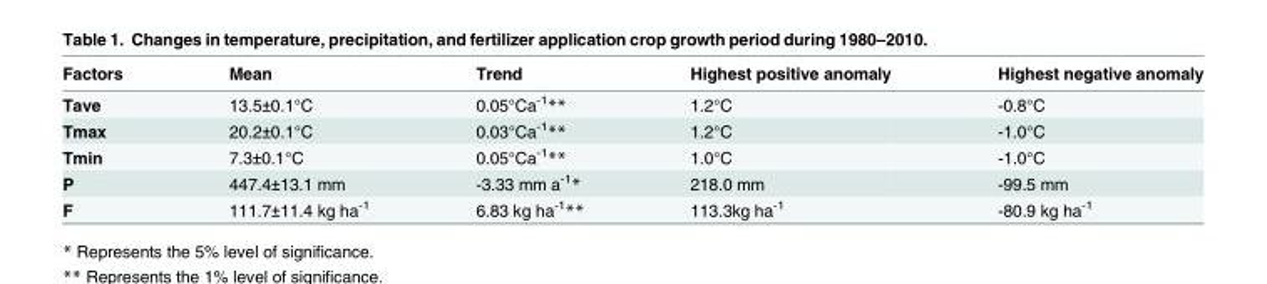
<table><thead><tr><td>Factors</td><td>Mean</td><td>Trend</td><td>Highest positive anomaly</td><td>Highest negative anomaly</td></tr></thead><tbody><tr><td>Tave</td><td>13.5±0.1°C</td><td>0.05°Ca<sup>-1</sup>**</td><td>1.2°C</td><td>-0.8°C</td></tr><tr><td>Tmax</td><td>20.2±0.1°C</td><td>0.03°Ca<sup>-1</sup>**</td><td>1.2°C</td><td>-1.0°C</td></tr><tr><td>Tmin</td><td>7.3±0.1°C</td><td>0.05°Ca<sup>-1</sup>**</td><td>1.0°C</td><td>-1.0°C</td></tr><tr><td>P</td><td>447.4±13.1 mm</td><td>-3.33 mm a<sup>-1</sup>*</td><td>218.0 mm</td><td>-99.5 mm</td></tr><tr><td>F</td><td>111.7±11.4 kg ha<sup>-1</sup></td><td>6.83 kg ha<sup>-1</sup>**</td><td>113.3kg ha<sup>-1</sup></td><td>-80.9 kg ha<sup>-1</sup></td></tr></tbody></table>